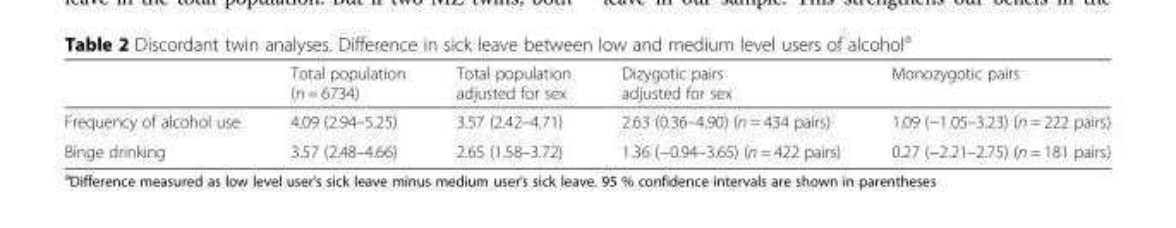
<table><thead><tr><td></td><td>Total population (n = 6734)</td><td>Total population adjusted for sex</td><td>Dizygotic pairs adjusted for sex</td><td>Monozygotic pairs</td></tr></thead><tbody><tr><td>Frequency of alcohol use</td><td>4.09 (2.94–5.25)</td><td>3.57 (2.42–4.71)</td><td>2.63 (0.36–4.90) (n = 434 pairs)</td><td>1.09 (−1.05–3.23) (n = 222 pairs)</td></tr><tr><td>Binge drinking</td><td>3.57 (2.48–4.66)</td><td>2.65 (1.58–3.72)</td><td>1.36 (−0.94–3.65) (n = 422 pairs)</td><td>0.27 (−2.21–2.75) (n = 181 pairs)</td></tr></tbody></table>